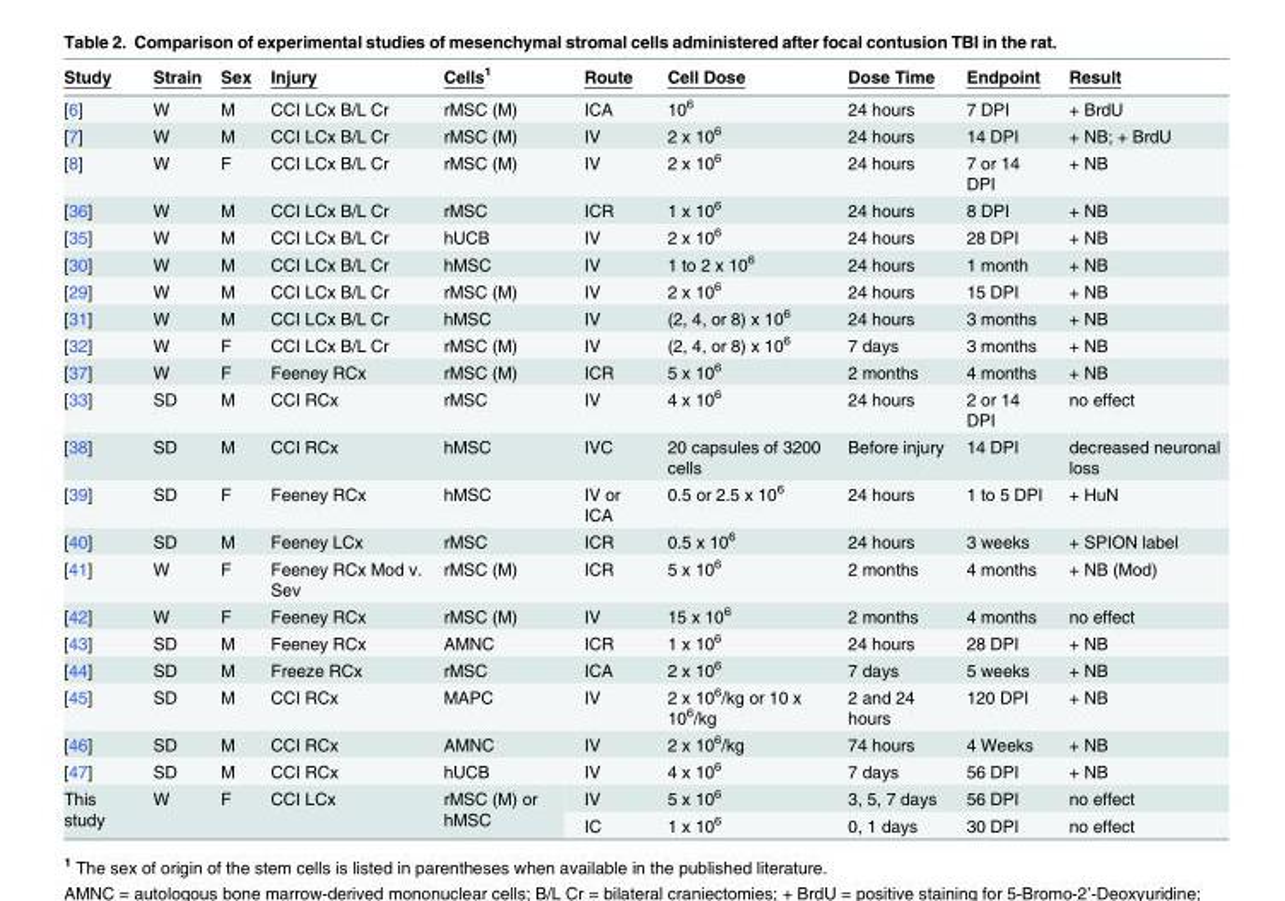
<table><thead><tr><td>Study</td><td>Strain</td><td>Sex</td><td>Injury</td><td>Cells<sup>1</sup></td><td>Route</td><td>Cell Dose</td><td>Dose Time</td><td>Endpoint</td><td>Result</td></tr></thead><tbody><tr><td>[6]</td><td>W</td><td>M</td><td>CCI LCx B/L Cr</td><td>rMSC (M)</td><td>ICA</td><td>10<sup>6</sup></td><td>24 hours</td><td>7 DPI</td><td>+ BrdU</td></tr><tr><td>[7]</td><td>W</td><td>M</td><td>CCI LCx B/L Cr</td><td>rMSC (M)</td><td>IV</td><td>2 x 10<sup>6</sup></td><td>24 hours</td><td>14 DPI</td><td>+ NB; + BrdU</td></tr><tr><td>[8]</td><td>W</td><td>F</td><td>CCI LCx B/L Cr</td><td>rMSC (M)</td><td>IV</td><td>2 x 10<sup>6</sup></td><td>24 hours</td><td>7 or 14 DPI</td><td>+ NB</td></tr><tr><td>[36]</td><td>W</td><td>M</td><td>CCI LCx B/L Cr</td><td>rMSC</td><td>ICR</td><td>1 x 10<sup>6</sup></td><td>24 hours</td><td>8 DPI</td><td>+ NB</td></tr><tr><td>[35]</td><td>W</td><td>M</td><td>CCI LCx B/L Cr</td><td>hUCB</td><td>IV</td><td>2 x 10<sup>6</sup></td><td>24 hours</td><td>28 DPI</td><td>+ NB</td></tr><tr><td>[30]</td><td>W</td><td>M</td><td>CCI LCx B/L Cr</td><td>hMSC</td><td>IV</td><td>1 to 2 x 10<sup>6</sup></td><td>24 hours</td><td>1 month</td><td>+ NB</td></tr><tr><td>[29]</td><td>W</td><td>M</td><td>CCI LCx B/L Cr</td><td>rMSC (M)</td><td>IV</td><td>2 x 10<sup>6</sup></td><td>24 hours</td><td>15 DPI</td><td>+ NB</td></tr><tr><td>[31]</td><td>W</td><td>M</td><td>CCI LCx B/L Cr</td><td>hMSC</td><td>IV</td><td>(2, 4, or 8) x 10<sup>6</sup></td><td>24 hours</td><td>3 months</td><td>+ NB</td></tr><tr><td>[32]</td><td>W</td><td>F</td><td>CCI LCx B/L Cr</td><td>rMSC (M)</td><td>IV</td><td>(2, 4, or 8) x 10<sup>6</sup></td><td>7 days</td><td>3 months</td><td>+ NB</td></tr><tr><td>[37]</td><td>W</td><td>F</td><td>Feeney RCx</td><td>rMSC (M)</td><td>ICR</td><td>5 x 10<sup>6</sup></td><td>2 months</td><td>4 months</td><td>+ NB</td></tr><tr><td>[33]</td><td>SD</td><td>M</td><td>CCI RCx</td><td>rMSC</td><td>IV</td><td>4 x 10<sup>6</sup></td><td>24 hours</td><td>2 or 14 DPI</td><td>no effect</td></tr><tr><td>[38]</td><td>SD</td><td>M</td><td>CCI RCx</td><td>hMSC</td><td>IVC</td><td>20 capsules of 3200 cells</td><td>Before injury</td><td>14 DPI</td><td>decreased neuronal loss</td></tr><tr><td>[39]</td><td>SD</td><td>F</td><td>Feeney RCx</td><td>hMSC</td><td>IV or ICA</td><td>0.5 or 2.5 x 10<sup>6</sup></td><td>24 hours</td><td>1 to 5 DPI</td><td>+ HuN</td></tr><tr><td>[40]</td><td>SD</td><td>M</td><td>Feeney LCx</td><td>rMSC</td><td>ICR</td><td>0.5 x 10<sup>6</sup></td><td>24 hours</td><td>3 weeks</td><td>+ SPION label</td></tr><tr><td>[41]</td><td>W</td><td>F</td><td>Feeney RCx Mod v. Sev</td><td>rMSC (M)</td><td>ICR</td><td>5 x 10<sup>6</sup></td><td>2 months</td><td>4 months</td><td>+ NB (Mod)</td></tr><tr><td>[42]</td><td>W</td><td>F</td><td>Feeney RCx</td><td>rMSC (M)</td><td>IV</td><td>15 x 10<sup>6</sup></td><td>2 months</td><td>4 months</td><td>no effect</td></tr><tr><td>[43]</td><td>SD</td><td>M</td><td>Feeney RCx</td><td>AMNC</td><td>ICR</td><td>1 x 10<sup>6</sup></td><td>24 hours</td><td>28 DPI</td><td>+ NB</td></tr><tr><td>[44]</td><td>SD</td><td>M</td><td>Freeze RCx</td><td>rMSC</td><td>ICA</td><td>2 x 10<sup>6</sup></td><td>7 days</td><td>5 weeks</td><td>+ NB</td></tr><tr><td>[45]</td><td>SD</td><td>M</td><td>CCI RCx</td><td>MAPC</td><td>IV</td><td>2 x 10<sup>6</sup>/kg or 10 x 10<sup>6</sup>/kg</td><td>2 and 24 hours</td><td>120 DPI</td><td>+ NB</td></tr><tr><td>[46]</td><td>SD</td><td>M</td><td>CCI RCx</td><td>AMNC</td><td>IV</td><td>2 x 10<sup>6</sup>/kg</td><td>74 hours</td><td>4 Weeks</td><td>+ NB</td></tr><tr><td>[47]</td><td>SD</td><td>M</td><td>CCI RCx</td><td>hUCB</td><td>IV</td><td>4 x 10<sup>6</sup></td><td>7 days</td><td>56 DPI</td><td>+ NB</td></tr><tr><td rowspan="2">This study</td><td rowspan="2">W</td><td rowspan="2">F</td><td rowspan="2">CCI LCx</td><td rowspan="2">rMSC (M) or hMSC</td><td>IV</td><td>5 x 10<sup>6</sup></td><td>3, 5, 7 days</td><td>56 DPI</td><td>no effect</td></tr><tr><td>IC</td><td>1 x 10<sup>6</sup></td><td>0, 1 days</td><td>30 DPI</td><td>no effect</td></tr></tbody></table>